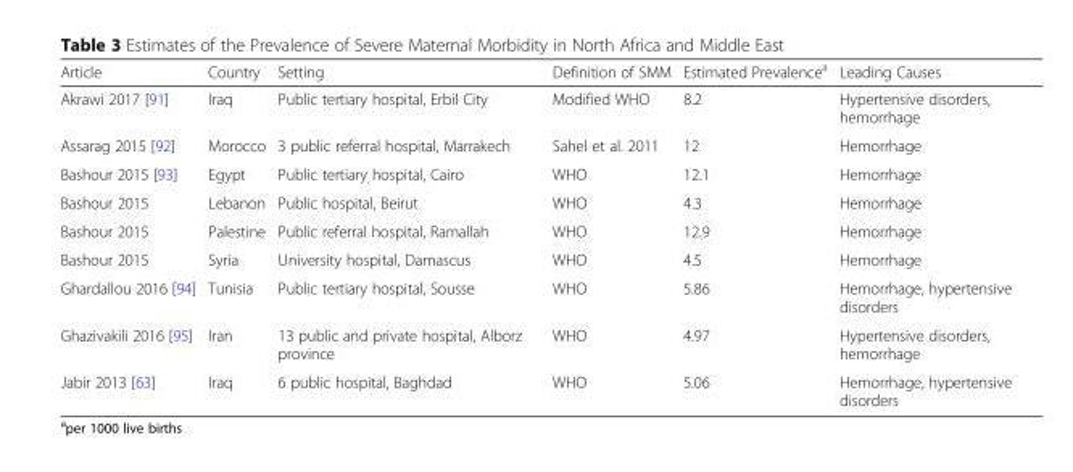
<table><thead><tr><td>Article</td><td>Country</td><td>Setting</td><td>Definition of SMM</td><td>Estimated Prevalence<sup>a</sup></td><td>Leading Causes</td></tr></thead><tbody><tr><td>Akrawi 2017 [91]</td><td>Iraq</td><td>Public tertiary hospital, Erbil City</td><td>Modified WHO</td><td>8.2</td><td>Hypertensive disorders, hemorrhage</td></tr><tr><td>Assarag 2015 [92]</td><td>Morocco</td><td>3 public referral hospital, Marrakech</td><td>Sahel et al. 2011</td><td>12</td><td>Hemorrhage</td></tr><tr><td>Bashour 2015 [93]</td><td>Egypt</td><td>Public tertiary hospital, Cairo</td><td>WHO</td><td>12.1</td><td>Hemorrhage</td></tr><tr><td>Bashour 2015</td><td>Lebanon</td><td>Public hospital, Beirut</td><td>WHO</td><td>4.3</td><td>Hemorrhage</td></tr><tr><td>Bashour 2015</td><td>Palestine</td><td>Public referral hospital, Ramallah</td><td>WHO</td><td>12.9</td><td>Hemorrhage</td></tr><tr><td>Bashour 2015</td><td>Syria</td><td>University hospital, Damascus</td><td>WHO</td><td>4.5</td><td>Hemorrhage</td></tr><tr><td>Ghardallou 2016 [94]</td><td>Tunisia</td><td>Public tertiary hospital, Sousse</td><td>WHO</td><td>5.86</td><td>Hemorrhage, hypertensive disorders</td></tr><tr><td>Ghazivakili 2016 [95]</td><td>Iran</td><td>13 public and private hospital, Alborz province</td><td>WHO</td><td>4.97</td><td>Hypertensive disorders, hemorrhage</td></tr><tr><td>Jabir 2013 [63]</td><td>Iraq</td><td>6 public hospital, Baghdad</td><td>WHO</td><td>5.06</td><td>Hemorrhage, hypertensive disorders</td></tr></tbody></table>